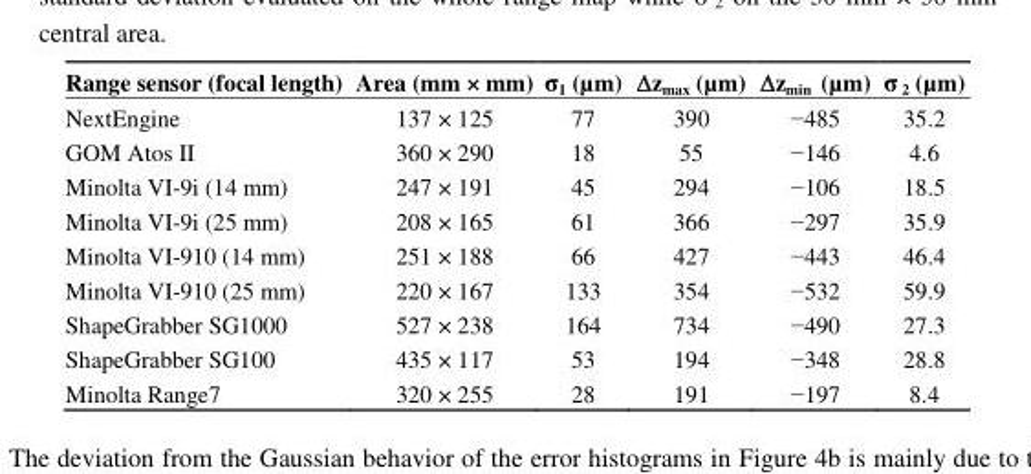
<table><thead><tr><td>Range sensor (focal length)</td><td>Area (mm × mm)</td><td>σ<sub>1</sub> (µm)</td><td>Δz<sub>max</sub> (µm)</td><td>Δz<sub>min</sub> (µm)</td><td>σ <sub>2</sub> (µm)</td></tr></thead><tbody><tr><td>NextEngine</td><td>137 × 125</td><td>77</td><td>390</td><td>−485</td><td>35.2</td></tr><tr><td>GOM Atos II</td><td>360 × 290</td><td>18</td><td>55</td><td>−146</td><td>4.6</td></tr><tr><td>Minolta VI-9i (14 mm)</td><td>247 × 191</td><td>45</td><td>294</td><td>−106</td><td>18.5</td></tr><tr><td>Minolta VI-9i (25 mm)</td><td>208 × 165</td><td>61</td><td>366</td><td>−297</td><td>35.9</td></tr><tr><td>Minolta VI-910 (14 mm)</td><td>251 × 188</td><td>66</td><td>427</td><td>−443</td><td>46.4</td></tr><tr><td>Minolta VI-910 (25 mm)</td><td>220 × 167</td><td>133</td><td>354</td><td>−532</td><td>59.9</td></tr><tr><td>ShapeGrabber SG1000</td><td>527 × 238</td><td>164</td><td>734</td><td>−490</td><td>27.3</td></tr><tr><td>ShapeGrabber SG100</td><td>435 × 117</td><td>53</td><td>194</td><td>−348</td><td>28.8</td></tr><tr><td>Minolta Range7</td><td>320 × 255</td><td>28</td><td>191</td><td>−197</td><td>8.4</td></tr></tbody></table>